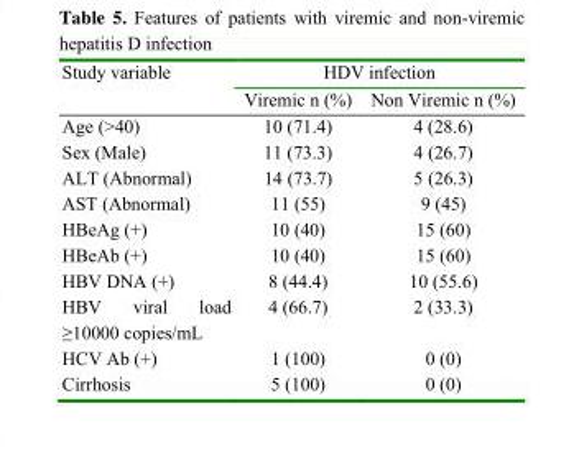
<table><tbody><tr><td rowspan="2">Study variable</td><td colspan="2">HDV infection</td></tr><tr><td>Viremic n (%)</td><td>Non Viremic n (%)</td></tr><tr><td>Age (&gt;40)</td><td>10 (71.4)</td><td>4 (28.6)</td></tr><tr><td>Sex (Male)</td><td>11 (73.3)</td><td>4 (26.7)</td></tr><tr><td>ALT (Abnormal)</td><td>14 (73.7)</td><td>5 (26.3)</td></tr><tr><td>AST (Abnormal)</td><td>11 (55)</td><td>9 (45)</td></tr><tr><td>HBeAg (+)</td><td>10 (40)</td><td>15 (60)</td></tr><tr><td>HBeAb (+)</td><td>10 (40)</td><td>15 (60)</td></tr><tr><td>HBV DNA (+)</td><td>8 (44.4)</td><td>10 (55.6)</td></tr><tr><td>HBV viral load ≥10000 copies/mL</td><td>4 (66.7)</td><td>2 (33.3)</td></tr><tr><td>HCV Ab (+)</td><td>1 (100)</td><td>0 (0)</td></tr><tr><td>Cirrhosis</td><td>5 (100)</td><td>0 (0)</td></tr></tbody></table>